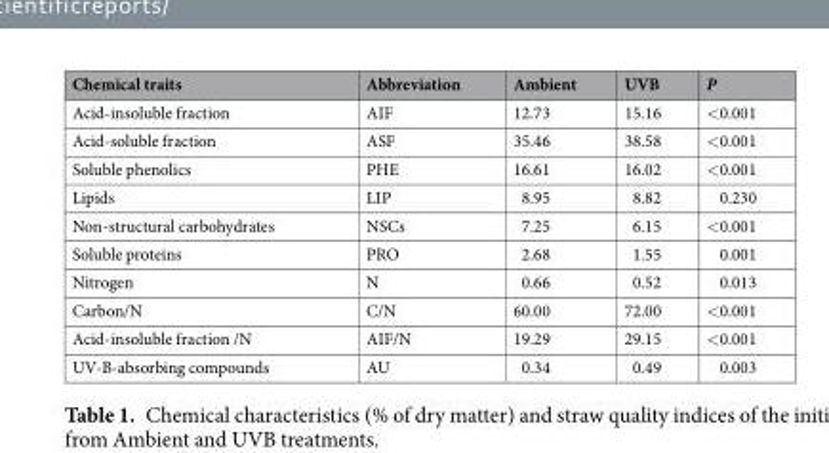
<table><thead><tr><td>Chemical traits</td><td>Abbreviation</td><td>Ambient</td><td>UVB</td><td>P</td></tr></thead><tbody><tr><td>Acid-insoluble fraction</td><td>AIF</td><td>12.73</td><td>15.16</td><td>&lt;0.001</td></tr><tr><td>Acid-soluble fraction</td><td>ASF</td><td>35.46</td><td>38.58</td><td>&lt;0.001</td></tr><tr><td>Soluble phenolics</td><td>PHE</td><td>16.61</td><td>16.02</td><td>&lt;0.001</td></tr><tr><td>Lipids</td><td>LIP</td><td>8.95</td><td>8.82</td><td>0.230</td></tr><tr><td>Non-structural carbohydrates</td><td>NSCs</td><td>7.25</td><td>6.15</td><td>&lt;0.001</td></tr><tr><td>Soluble proteins</td><td>PRO</td><td>2.68</td><td>1.55</td><td>0.001</td></tr><tr><td>Nitrogen</td><td>N</td><td>0.66</td><td>0.52</td><td>0.013</td></tr><tr><td>Carbon/N</td><td>C/N</td><td>60.00</td><td>72.00</td><td>&lt;0.001</td></tr><tr><td>Acid-insoluble fraction /N</td><td>AIF/N</td><td>19.29</td><td>29.15</td><td>&lt;0.001</td></tr><tr><td>UV-B-absorbing compounds</td><td>AU</td><td>0.34</td><td>0.49</td><td>0.003</td></tr></tbody></table>